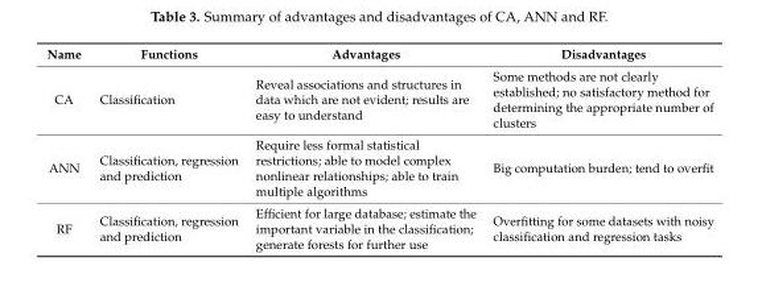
<table><thead><tr><td>Name</td><td>Functions</td><td>Advantages</td><td>Disadvantages</td></tr></thead><tbody><tr><td>CA</td><td>Classification</td><td>Reveal associations and structures in data which are not evident; results are easy to understand</td><td>Some methods are not clearly established; no satisfactory method for determining the appropriate number of clusters</td></tr><tr><td>ANN</td><td>Classification, regression and prediction</td><td>Require less formal statistical restrictions; able to model complex nonlinear relationships; able to train multiple algorithms</td><td>Big computation burden; tend to overfit</td></tr><tr><td>RF</td><td>Classification, regression and prediction</td><td>Efficient for large database; estimate the important variable in the classification; generate forests for further use</td><td>Overfitting for some datasets with noisy classification and regression tasks</td></tr></tbody></table>